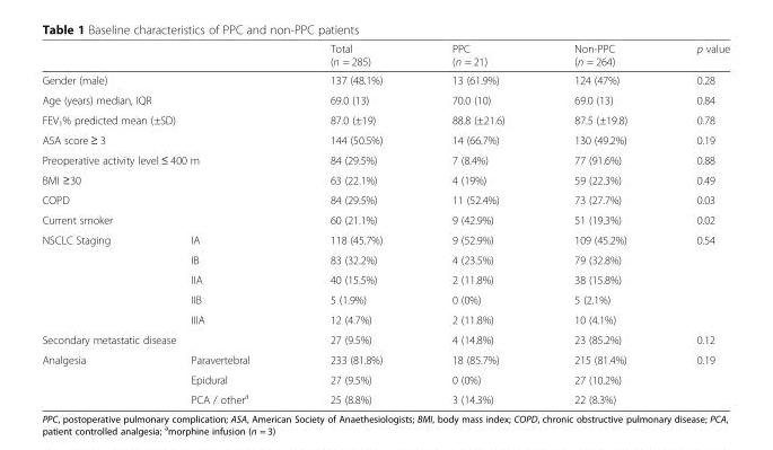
<table><thead><tr><td></td><td></td><td>Total (n = 285)</td><td>PPC (n = 21)</td><td>Non-PPC (n = 264)</td><td>p value</td></tr></thead><tbody><tr><td colspan="2">Gender (male)</td><td>137 (48.1%)</td><td>13 (61.9%)</td><td>124 (47%)</td><td>0.28</td></tr><tr><td colspan="2">Age (years) median, IQR</td><td>69.0 (13)</td><td>70.0 (10)</td><td>69.0 (13)</td><td>0.84</td></tr><tr><td colspan="2">FEV<sub>1</sub>% predicted mean (±SD)</td><td>87.0 (±19)</td><td>88.8 (±21.6)</td><td>87.5 (±19.8)</td><td>0.78</td></tr><tr><td colspan="2">ASA score ≥ 3</td><td>144 (50.5%)</td><td>14 (66.7%)</td><td>130 (49.2%)</td><td>0.19</td></tr><tr><td colspan="2">Preoperative activity level ≤ 400 m</td><td>84 (29.5%)</td><td>7 (8.4%)</td><td>77 (91.6%)</td><td>0.88</td></tr><tr><td colspan="2">BMI ≥30</td><td>63 (22.1%)</td><td>4 (19%)</td><td>59 (22.3%)</td><td>0.49</td></tr><tr><td colspan="2">COPD</td><td>84 (29.5%)</td><td>11 (52.4%)</td><td>73 (27.7%)</td><td>0.03</td></tr><tr><td colspan="2">Current smoker</td><td>60 (21.1%)</td><td>9 (42.9%)</td><td>51 (19.3%)</td><td>0.02</td></tr><tr><td rowspan="5">NSCLC Staging</td><td>IA</td><td>118 (45.7%)</td><td>9 (52.9%)</td><td>109 (45.2%)</td><td rowspan="5">0.54</td></tr><tr><td>IB</td><td>83 (32.2%)</td><td>4 (23.5%)</td><td>79 (32.8%)</td></tr><tr><td>IIA</td><td>40 (15.5%)</td><td>2 (11.8%)</td><td>38 (15.8%)</td></tr><tr><td>IIB</td><td>5 (1.9%)</td><td>0 (0%)</td><td>5 (2.1%)</td></tr><tr><td>IIIA</td><td>12 (4.7%)</td><td>2 (11.8%)</td><td>10 (4.1%)</td></tr><tr><td colspan="2">Secondary metastatic disease</td><td>27 (9.5%)</td><td>4 (14.8%)</td><td>23 (85.2%)</td><td>0.12</td></tr><tr><td rowspan="3">Analgesia</td><td>Paravertebral</td><td>233 (81.8%)</td><td>18 (85.7%)</td><td>215 (81.4%)</td><td rowspan="3">0.19</td></tr><tr><td>Epidural</td><td>27 (9.5%)</td><td>0 (0%)</td><td>27 (10.2%)</td></tr><tr><td>PCA / other<sup>a</sup></td><td>25 (8.8%)</td><td>3 (14.3%)</td><td>22 (8.3%)</td></tr></tbody></table>